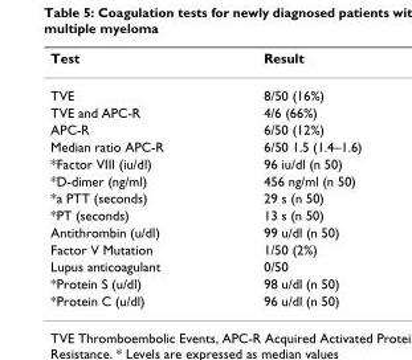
<table><thead><tr><td>Test</td><td>Result</td></tr></thead><tbody><tr><td>TVE</td><td>8/50 (16%)</td></tr><tr><td>TVE and APC-R</td><td>4/6 (66%)</td></tr><tr><td>APC-R</td><td>6/50 (12%)</td></tr><tr><td>Median ratio APC-R</td><td>6/50 1.5 (1.4–1.6)</td></tr><tr><td>*Factor VIII (iu/dl)</td><td>96 iu/dl (n 50)</td></tr><tr><td>*D-dimer (ng/ml)</td><td>456 ng/ml (n 50)</td></tr><tr><td>*a PTT (seconds)</td><td>29 s (n 50)</td></tr><tr><td>*PT (seconds)</td><td>13 s (n 50)</td></tr><tr><td>Antithrombin (u/dl)</td><td>99 u/dl (n 50)</td></tr><tr><td>Factor V Mutation</td><td>1/50 (2%)</td></tr><tr><td>Lupus anticoagulant</td><td>0/50</td></tr><tr><td>*Protein S (u/dl)</td><td>98 u/dl (n 50)</td></tr><tr><td>*Protein C (u/dl)</td><td>96 u/dl (n 50)</td></tr></tbody></table>